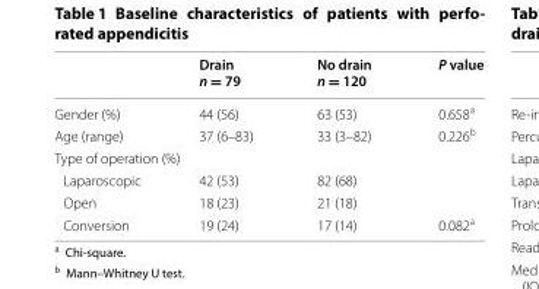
<table><thead><tr><td></td><td>Drain n = 79</td><td>No drain n = 120</td><td>P value</td></tr></thead><tbody><tr><td>Gender (%)</td><td>44 (56)</td><td>63 (53)</td><td>0.658<sup>a</sup></td></tr><tr><td>Age (range)</td><td>37 (6–83)</td><td>33 (3–82)</td><td>0.226<sup>b</sup></td></tr><tr><td colspan="4">Type of operation (%)</td></tr><tr><td>Laparoscopic</td><td>42 (53)</td><td>82 (68)</td><td></td></tr><tr><td>Open</td><td>18 (23)</td><td>21 (18)</td><td></td></tr><tr><td>Conversion</td><td>19 (24)</td><td>17 (14)</td><td>0.082<sup>a</sup></td></tr></tbody></table>